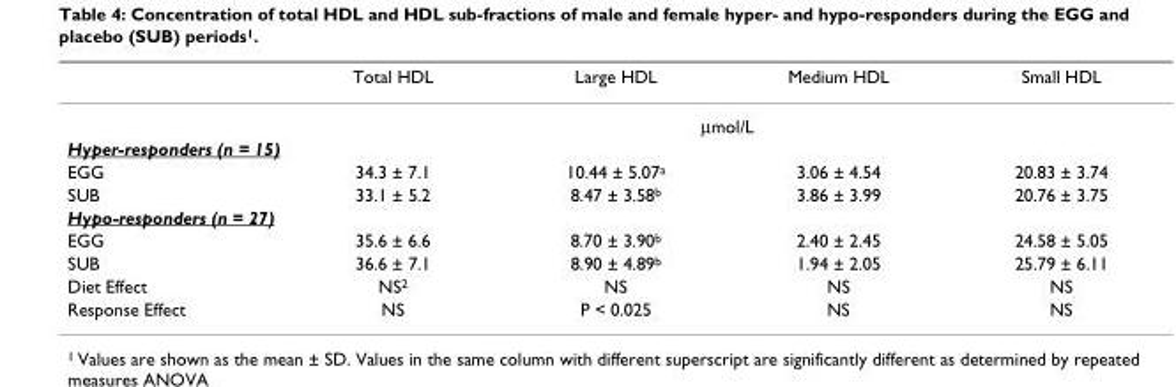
<table><thead><tr><td></td><td>Total HDL</td><td>Large HDL</td><td>Medium HDL</td><td>Small HDL</td></tr></thead><tbody><tr><td></td><td colspan="4">µmol/L</td></tr><tr><td colspan="5">Hyper-responders (n = 15)</td></tr><tr><td>EGG</td><td>34.3 ± 7.1</td><td>10.44 ± 5.07<sup>a</sup></td><td>3.06 ± 4.54</td><td>20.83 ± 3.74</td></tr><tr><td>SUB</td><td>33.1 ± 5.2</td><td>8.47 ± 3.58<sup>b</sup></td><td>3.86 ± 3.99</td><td>20.76 ± 3.75</td></tr><tr><td colspan="5">Hypo-responders (n = 27)</td></tr><tr><td>EGG</td><td>35.6 ± 6.6</td><td>8.70 ± 3.90<sup>b</sup></td><td>2.40 ± 2.45</td><td>24.58 ± 5.05</td></tr><tr><td>SUB</td><td>36.6 ± 7.1</td><td>8.90 ± 4.89<sup>b</sup></td><td>1.94 ± 2.05</td><td>25.79 ± 6.11</td></tr><tr><td>Diet Effect</td><td>NS<sup>2</sup></td><td>NS</td><td>NS</td><td>NS</td></tr><tr><td>Response Effect</td><td>NS</td><td>P &lt; 0.025</td><td>NS</td><td>NS</td></tr></tbody></table>